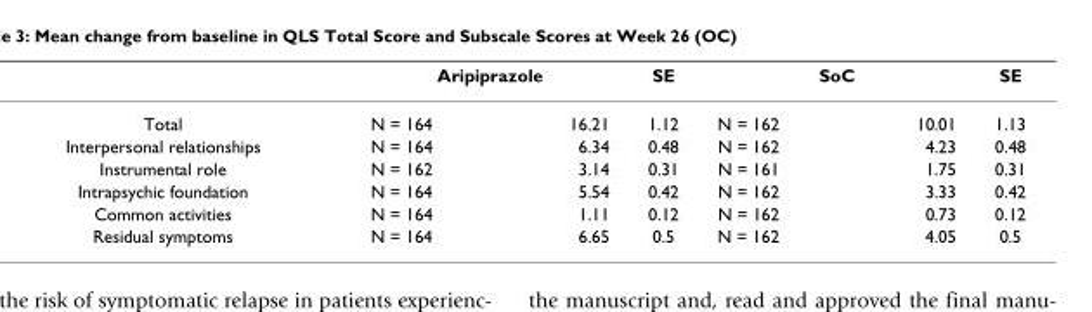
<table><thead><tr><td rowspan="2">Total</td><td colspan="2">Aripiprazole</td><td rowspan="2">SE 1.12</td><td colspan="2">SoC</td><td rowspan="2">SE 1.13</td></tr><tr><td>N = 164</td><td>16.21</td><td>N = 162</td><td>10.01</td></tr></thead><tbody><tr><td>Interpersonal relationships</td><td>N = 164</td><td>6.34</td><td>0.48</td><td>N = 162</td><td>4.23</td><td>0.48</td></tr><tr><td>Instrumental role</td><td>N = 162</td><td>3.14</td><td>0.31</td><td>N = 161</td><td>1.75</td><td>0.31</td></tr><tr><td>Intrapsychic foundation</td><td>N = 164</td><td>5.54</td><td>0.42</td><td>N = 162</td><td>3.33</td><td>0.42</td></tr><tr><td>Common activities</td><td>N = 164</td><td>1.11</td><td>0.12</td><td>N = 162</td><td>0.73</td><td>0.12</td></tr><tr><td>Residual symptoms</td><td>N = 164</td><td>6.65</td><td>0.5</td><td>N = 162</td><td>4.05</td><td>0.5</td></tr></tbody></table>